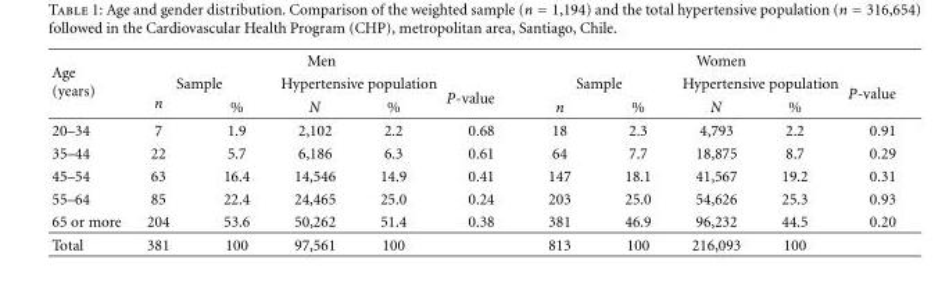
<table><thead><tr><td rowspan="3">Age (years)</td><td colspan="5">Men</td><td colspan="5">Women</td></tr><tr><td colspan="2">Sample</td><td colspan="2">Hypertensive population</td><td rowspan="2">P-value</td><td colspan="2">Sample</td><td colspan="2">Hypertensive population</td><td rowspan="2">P-value</td></tr><tr><td>n</td><td>%</td><td>N</td><td>%</td><td>n</td><td>%</td><td>N</td><td>%</td></tr></thead><tbody><tr><td>20–34</td><td>7</td><td>1.9</td><td>2,102</td><td>2.2</td><td>0.68</td><td>18</td><td>2.3</td><td>4,793</td><td>2.2</td><td>0.91</td></tr><tr><td>35–44</td><td>22</td><td>5.7</td><td>6,186</td><td>6.3</td><td>0.61</td><td>64</td><td>7.7</td><td>18,875</td><td>8.7</td><td>0.29</td></tr><tr><td>45–54</td><td>63</td><td>16.4</td><td>14,546</td><td>14.9</td><td>0.41</td><td>147</td><td>18.1</td><td>41,567</td><td>19.2</td><td>0.31</td></tr><tr><td>55–64</td><td>85</td><td>22.4</td><td>24,465</td><td>25.0</td><td>0.24</td><td>203</td><td>25.0</td><td>54,626</td><td>25.3</td><td>0.93</td></tr><tr><td>65 or more</td><td>204</td><td>53.6</td><td>50,262</td><td>51.4</td><td>0.38</td><td>381</td><td>46.9</td><td>96,232</td><td>44.5</td><td>0.20</td></tr><tr><td>Total</td><td>381</td><td>100</td><td>97,561</td><td>100</td><td></td><td>813</td><td>100</td><td>216,093</td><td>100</td><td></td></tr></tbody></table>